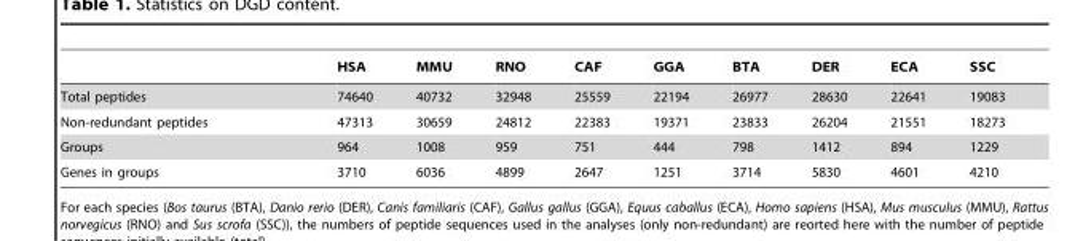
<table><thead><tr><td></td><td>HSA</td><td>MMU</td><td>RNO</td><td>CAF</td><td>GGA</td><td>BTA</td><td>DER</td><td>ECA</td><td>SSC</td></tr></thead><tbody><tr><td>Total peptides</td><td>74640</td><td>40732</td><td>32948</td><td>25559</td><td>22194</td><td>26977</td><td>28630</td><td>22641</td><td>19083</td></tr><tr><td>Non-redundant peptides</td><td>47313</td><td>30659</td><td>24812</td><td>22383</td><td>19371</td><td>23833</td><td>26204</td><td>21551</td><td>18273</td></tr><tr><td>Groups</td><td>964</td><td>1008</td><td>959</td><td>751</td><td>444</td><td>798</td><td>1412</td><td>894</td><td>1229</td></tr><tr><td>Genes in groups</td><td>3710</td><td>6036</td><td>4899</td><td>2647</td><td>1251</td><td>3714</td><td>5830</td><td>4601</td><td>4210</td></tr></tbody></table>